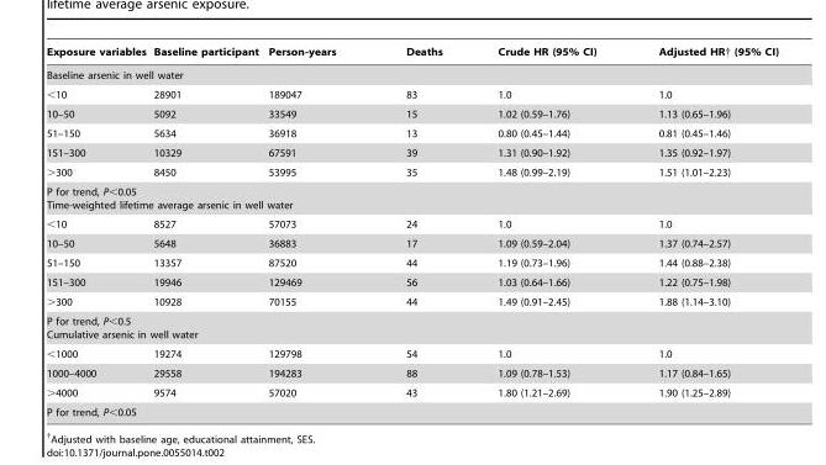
<table><thead><tr><td>Exposure variables</td><td>Baseline participant</td><td>Person-years</td><td>Deaths</td><td>Crude HR (95% CI)</td><td>Adjusted HR† (95% CI)</td></tr></thead><tbody><tr><td colspan="6">Baseline arsenic in well water</td></tr><tr><td>&lt;10</td><td>28901</td><td>189047</td><td>83</td><td>1.0</td><td>1.0</td></tr><tr><td>10–50</td><td>5092</td><td>33549</td><td>15</td><td>1.02 (0.59–1.76)</td><td>1.13 (0.65–1.96)</td></tr><tr><td>51–150</td><td>5634</td><td>36918</td><td>13</td><td>0.80 (0.45–1.44)</td><td>0.81 (0.45–1.46)</td></tr><tr><td>151–300</td><td>10329</td><td>67591</td><td>39</td><td>1.31 (0.90–1.92)</td><td>1.35 (0.92–1.97)</td></tr><tr><td>&gt;300</td><td>8450</td><td>53995</td><td>35</td><td>1.48 (0.99–2.19)</td><td>1.51 (1.01–2.23)</td></tr><tr><td colspan="6">P for trend, P&lt;0.05 Time-weighted lifetime average arsenic in well water</td></tr><tr><td>&lt;10</td><td>8527</td><td>57073</td><td>24</td><td>1.0</td><td>1.0</td></tr><tr><td>10–50</td><td>5648</td><td>36883</td><td>17</td><td>1.09 (0.59–2.04)</td><td>1.37 (0.74–2.57)</td></tr><tr><td>51–150</td><td>13357</td><td>87520</td><td>44</td><td>1.19 (0.73–1.96)</td><td>1.44 (0.88–2.38)</td></tr><tr><td>151–300</td><td>19946</td><td>129469</td><td>56</td><td>1.03 (0.64–1.66)</td><td>1.22 (0.75–1.98)</td></tr><tr><td>&gt;300</td><td>10928</td><td>70155</td><td>44</td><td>1.49 (0.91–2.45)</td><td>1.88 (1.14–3.10)</td></tr><tr><td colspan="6">P for trend, P&lt;0.5 Cumulative arsenic in well water</td></tr><tr><td>&lt;1000</td><td>19274</td><td>129798</td><td>54</td><td>1.0</td><td>1.0</td></tr><tr><td>1000–4000</td><td>29558</td><td>194283</td><td>88</td><td>1.09 (0.78–1.53)</td><td>1.17 (0.84–1.65)</td></tr><tr><td>&gt;4000</td><td>9574</td><td>57020</td><td>43</td><td>1.80 (1.21–2.69)</td><td>1.90 (1.25–2.89)</td></tr><tr><td colspan="6">P for trend, P&lt;0.05</td></tr></tbody></table>